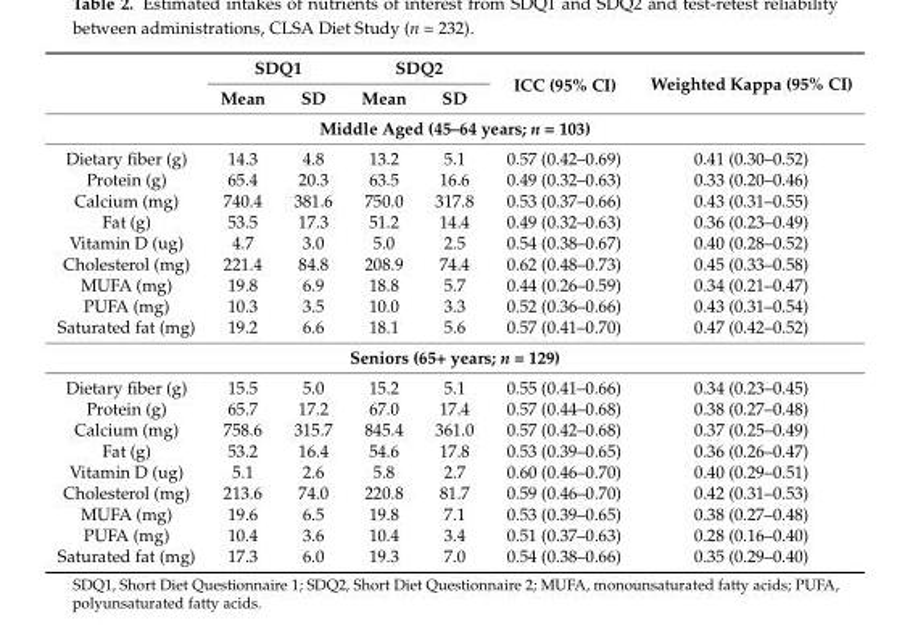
<table><thead><tr><td rowspan="2"></td><td colspan="2">SDQ1</td><td colspan="2">SDQ2</td><td rowspan="2">ICC (95% CI)</td><td rowspan="2">Weighted Kappa (95% CI)</td></tr><tr><td>Mean</td><td>SD</td><td>Mean</td><td>SD</td></tr></thead><tbody><tr><td colspan="7">Middle Aged (45–64 years; n = 103)</td></tr><tr><td>Dietary fiber (g)</td><td>14.3</td><td>4.8</td><td>13.2</td><td>5.1</td><td>0.57 (0.42–0.69)</td><td>0.41 (0.30–0.52)</td></tr><tr><td>Protein (g)</td><td>65.4</td><td>20.3</td><td>63.5</td><td>16.6</td><td>0.49 (0.32–0.63)</td><td>0.33 (0.20–0.46)</td></tr><tr><td>Calcium (mg)</td><td>740.4</td><td>381.6</td><td>750.0</td><td>317.8</td><td>0.53 (0.37–0.66)</td><td>0.43 (0.31–0.55)</td></tr><tr><td>Fat (g)</td><td>53.5</td><td>17.3</td><td>51.2</td><td>14.4</td><td>0.49 (0.32–0.63)</td><td>0.36 (0.23–0.49)</td></tr><tr><td>Vitamin D (ug)</td><td>4.7</td><td>3.0</td><td>5.0</td><td>2.5</td><td>0.54 (0.38–0.67)</td><td>0.40 (0.28–0.52)</td></tr><tr><td>Cholesterol (mg)</td><td>221.4</td><td>84.8</td><td>208.9</td><td>74.4</td><td>0.62 (0.48–0.73)</td><td>0.45 (0.33–0.58)</td></tr><tr><td>MUFA (mg)</td><td>19.8</td><td>6.9</td><td>18.8</td><td>5.7</td><td>0.44 (0.26–0.59)</td><td>0.34 (0.21–0.47)</td></tr><tr><td>PUFA (mg)</td><td>10.3</td><td>3.5</td><td>10.0</td><td>3.3</td><td>0.52 (0.36–0.66)</td><td>0.43 (0.31–0.54)</td></tr><tr><td>Saturated fat (mg)</td><td>19.2</td><td>6.6</td><td>18.1</td><td>5.6</td><td>0.57 (0.41–0.70)</td><td>0.47 (0.42–0.52)</td></tr><tr><td colspan="7">Seniors (65+ years; n = 129)</td></tr><tr><td>Dietary fiber (g)</td><td>15.5</td><td>5.0</td><td>15.2</td><td>5.1</td><td>0.55 (0.41–0.66)</td><td>0.34 (0.23–0.45)</td></tr><tr><td>Protein (g)</td><td>65.7</td><td>17.2</td><td>67.0</td><td>17.4</td><td>0.57 (0.44–0.68)</td><td>0.38 (0.27–0.48)</td></tr><tr><td>Calcium (mg)</td><td>758.6</td><td>315.7</td><td>845.4</td><td>361.0</td><td>0.57 (0.42–0.68)</td><td>0.37 (0.25–0.49)</td></tr><tr><td>Fat (g)</td><td>53.2</td><td>16.4</td><td>54.6</td><td>17.8</td><td>0.53 (0.39–0.65)</td><td>0.36 (0.26–0.47)</td></tr><tr><td>Vitamin D (ug)</td><td>5.1</td><td>2.6</td><td>5.8</td><td>2.7</td><td>0.60 (0.46–0.70)</td><td>0.40 (0.29–0.51)</td></tr><tr><td>Cholesterol (mg)</td><td>213.6</td><td>74.0</td><td>220.8</td><td>81.7</td><td>0.59 (0.46–0.70)</td><td>0.42 (0.31–0.53)</td></tr><tr><td>MUFA (mg)</td><td>19.6</td><td>6.5</td><td>19.8</td><td>7.1</td><td>0.53 (0.39–0.65)</td><td>0.38 (0.27–0.48)</td></tr><tr><td>PUFA (mg)</td><td>10.4</td><td>3.6</td><td>10.4</td><td>3.4</td><td>0.51 (0.37–0.63)</td><td>0.28 (0.16–0.40)</td></tr><tr><td>Saturated fat (mg)</td><td>17.3</td><td>6.0</td><td>19.3</td><td>7.0</td><td>0.54 (0.38–0.66)</td><td>0.35 (0.29–0.40)</td></tr></tbody></table>